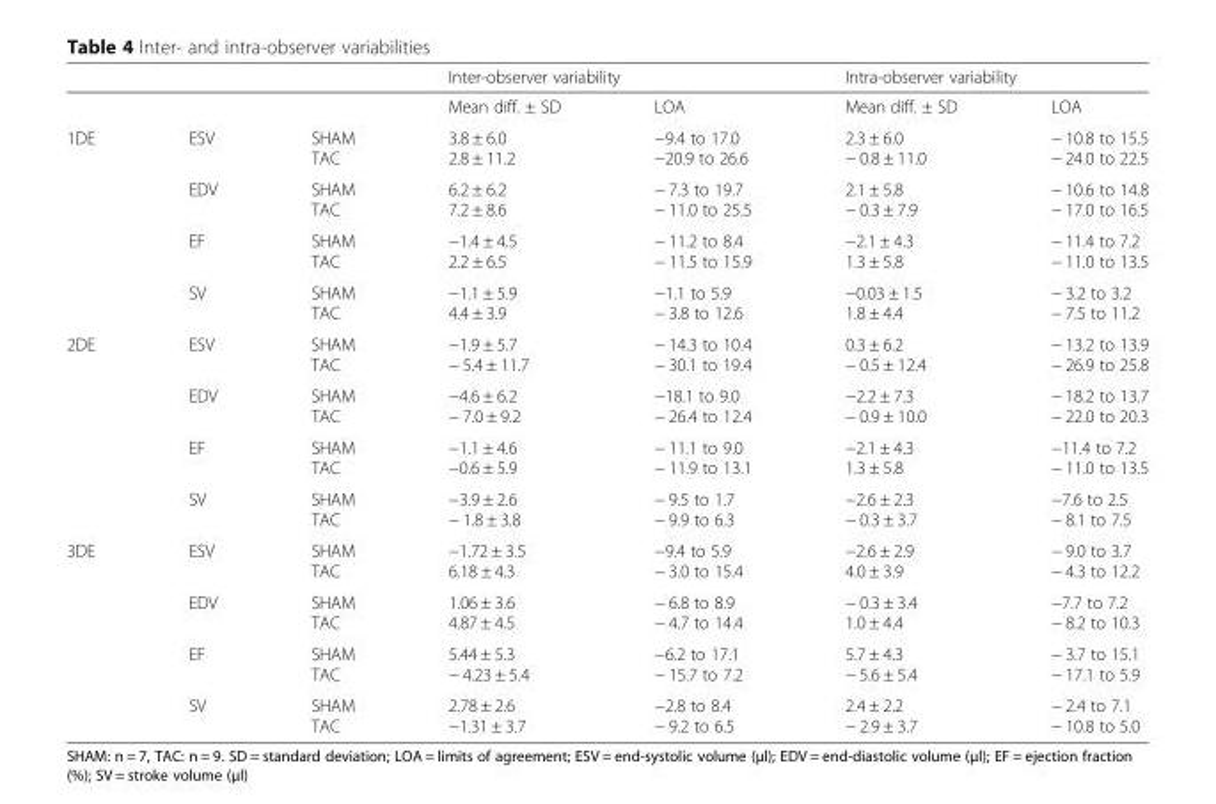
<table><thead><tr><td rowspan="2"></td><td rowspan="2"></td><td rowspan="2"></td><td colspan="2">Inter-observer variability</td><td colspan="2">Intra-observer variability</td></tr><tr><td>Mean diff. ± SD</td><td>LOA</td><td>Mean diff. ± SD</td><td>LOA</td></tr></thead><tbody><tr><td rowspan="4">1DE</td><td>ESV</td><td>SHAM TAC</td><td>3.8 ± 6.0 2.8 ± 11.2</td><td>−9.4 to 17.0 −20.9 to 26.6</td><td>2.3 ± 6.0 − 0.8 ± 11.0</td><td>− 10.8 to 15.5 − 24.0 to 22.5</td></tr><tr><td>EDV</td><td>SHAM TAC</td><td>6.2 ± 6.2 7.2 ± 8.6</td><td>− 7.3 to 19.7 − 11.0 to 25.5</td><td>2.1 ± 5.8 − 0.3 ± 7.9</td><td>− 10.6 to 14.8 − 17.0 to 16.5</td></tr><tr><td>EF</td><td>SHAM TAC</td><td>−1.4 ± 4.5 2.2 ± 6.5</td><td>− 11.2 to 8.4 − 11.5 to 15.9</td><td>−2.1 ± 4.3 1.3 ± 5.8</td><td>− 11.4 to 7.2 − 11.0 to 13.5</td></tr><tr><td>SV</td><td>SHAM TAC</td><td>−1.1 ± 5.9 4.4 ± 3.9</td><td>−1.1 to 5.9 − 3.8 to 12.6</td><td>−0.03 ± 1.5 1.8 ± 4.4</td><td>− 3.2 to 3.2 − 7.5 to 11.2</td></tr><tr><td rowspan="4">2DE</td><td>ESV</td><td>SHAM TAC</td><td>−1.9 ± 5.7 − 5.4 ± 11.7</td><td>− 14.3 to 10.4 − 30.1 to 19.4</td><td>0.3 ± 6.2 − 0.5 ± 12.4</td><td>− 13.2 to 13.9 − 26.9 to 25.8</td></tr><tr><td>EDV</td><td>SHAM TAC</td><td>−4.6 ± 6.2 − 7.0 ± 9.2</td><td>−18.1 to 9.0 − 26.4 to 12.4</td><td>−2.2 ± 7.3 − 0.9 ± 10.0</td><td>− 18.2 to 13.7 − 22.0 to 20.3</td></tr><tr><td>EF</td><td>SHAM TAC</td><td>−1.1 ± 4.6 −0.6 ± 5.9</td><td>− 11.1 to 9.0 − 11.9 to 13.1</td><td>−2.1 ± 4.3 1.3 ± 5.8</td><td>−11.4 to 7.2 − 11.0 to 13.5</td></tr><tr><td>SV</td><td>SHAM TAC</td><td>−3.9 ± 2.6 − 1.8 ± 3.8</td><td>− 9.5 to 1.7 − 9.9 to 6.3</td><td>−2.6 ± 2.3 − 0.3 ± 3.7</td><td>−7.6 to 2.5 − 8.1 to 7.5</td></tr><tr><td rowspan="4">3DE</td><td>ESV</td><td>SHAM TAC</td><td>−1.72 ± 3.5 6.18 ± 4.3</td><td>−9.4 to 5.9 − 3.0 to 15.4</td><td>−2.6 ± 2.9 4.0 ± 3.9</td><td>− 9.0 to 3.7 − 4.3 to 12.2</td></tr><tr><td>EDV</td><td>SHAM TAC</td><td>1.06 ± 3.6 4.87 ± 4.5</td><td>− 6.8 to 8.9 − 4.7 to 14.4</td><td>− 0.3 ± 3.4 1.0 ± 4.4</td><td>−7.7 to 7.2 − 8.2 to 10.3</td></tr><tr><td>EF</td><td>SHAM TAC</td><td>5.44 ± 5.3 − 4.23 ± 5.4</td><td>−6.2 to 17.1 − 15.7 to 7.2</td><td>5.7 ± 4.3 − 5.6 ± 5.4</td><td>− 3.7 to 15.1 − 17.1 to 5.9</td></tr><tr><td>SV</td><td>SHAM TAC</td><td>2.78 ± 2.6 −1.31 ± 3.7</td><td>−2.8 to 8.4 − 9.2 to 6.5</td><td>2.4 ± 2.2 − 2.9 ± 3.7</td><td>− 2.4 to 7.1 − 10.8 to 5.0</td></tr></tbody></table>